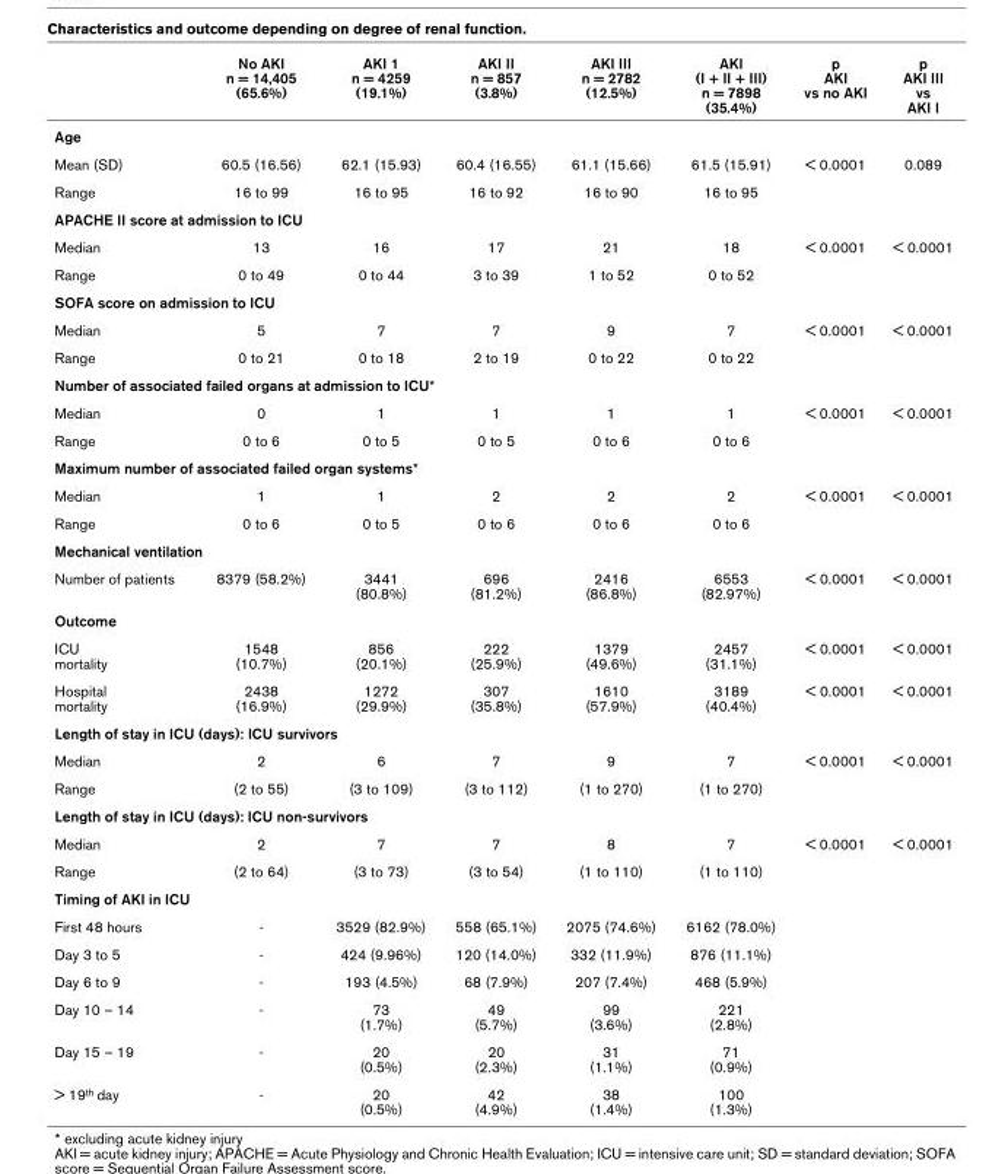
<table><thead><tr><td></td><td>No AKI n = 14,405 (65.6%)</td><td>AKI 1 n = 4259 (19.1%)</td><td>AKI II n = 857 (3.8%)</td><td>AKI III n = 2782 (12.5%)</td><td>AKI (I + II + III) n = 7898 (35.4%)</td><td>p AKI vs no AKI</td><td>p AKI III vs AKI I</td></tr></thead><tbody><tr><td colspan="8">Age</td></tr><tr><td>Mean (SD)</td><td>60.5 (16.56)</td><td>62.1 (15.93)</td><td>60.4 (16.55)</td><td>61.1 (15.66)</td><td>61.5 (15.91)</td><td>&lt; 0.0001</td><td>0.089</td></tr><tr><td>Range</td><td>16 to 99</td><td>16 to 95</td><td>16 to 92</td><td>16 to 90</td><td>16 to 95</td><td></td><td></td></tr><tr><td colspan="8">APACHE II score at admission to ICU</td></tr><tr><td>Median</td><td>13</td><td>16</td><td>17</td><td>21</td><td>18</td><td>&lt; 0.0001</td><td>&lt; 0.0001</td></tr><tr><td>Range</td><td>0 to 49</td><td>0 to 44</td><td>3 to 39</td><td>1 to 52</td><td>0 to 52</td><td></td><td></td></tr><tr><td colspan="8">SOFA score on admission to ICU</td></tr><tr><td>Median</td><td>5</td><td>7</td><td>7</td><td>9</td><td>7</td><td>&lt; 0.0001</td><td>&lt; 0.0001</td></tr><tr><td>Range</td><td>0 to 21</td><td>0 to 18</td><td>2 to 19</td><td>0 to 22</td><td>0 to 22</td><td></td><td></td></tr><tr><td colspan="8">Number of associated failed organs at admission to ICU*</td></tr><tr><td>Median</td><td>0</td><td>1</td><td>1</td><td>1</td><td>1</td><td>&lt; 0.0001</td><td>&lt; 0.0001</td></tr><tr><td>Range</td><td>0 to 6</td><td>0 to 5</td><td>0 to 5</td><td>0 to 6</td><td>0 to 6</td><td></td><td></td></tr><tr><td colspan="8">Maximum number of associated failed organ systems*</td></tr><tr><td>Median</td><td>1</td><td>1</td><td>2</td><td>2</td><td>2</td><td>&lt; 0.0001</td><td>&lt; 0.0001</td></tr><tr><td>Range</td><td>0 to 6</td><td>0 to 5</td><td>0 to 6</td><td>0 to 6</td><td>0 to 6</td><td></td><td></td></tr><tr><td colspan="8">Mechanical ventilation</td></tr><tr><td>Number of patients</td><td>8379 (58.2%)</td><td>3441 (80.8%)</td><td>696 (81.2%)</td><td>2416 (86.8%)</td><td>6553 (82.97%)</td><td>&lt; 0.0001</td><td>&lt; 0.0001</td></tr><tr><td colspan="8">Outcome</td></tr><tr><td>ICU mortality</td><td>1548 (10.7%)</td><td>856 (20.1%)</td><td>222 (25.9%)</td><td>1379 (49.6%)</td><td>2457 (31.1%)</td><td>&lt; 0.0001</td><td>&lt; 0.0001</td></tr><tr><td>Hospital mortality</td><td>2438 (16.9%)</td><td>1272 (29.9%)</td><td>307 (35.8%)</td><td>1610 (57.9%)</td><td>3189 (40.4%)</td><td>&lt; 0.0001</td><td>&lt; 0.0001</td></tr><tr><td colspan="8">Length of stay in ICU (days): ICU survivors</td></tr><tr><td>Median</td><td>2</td><td>6</td><td>7</td><td>9</td><td>7</td><td>&lt; 0.0001</td><td>&lt; 0.0001</td></tr><tr><td>Range</td><td>(2 to 55)</td><td>(3 to 109)</td><td>(3 to 112)</td><td>(1 to 270)</td><td>(1 to 270)</td><td></td><td></td></tr><tr><td colspan="8">Length of stay in ICU (days): ICU non-survivors</td></tr><tr><td>Median</td><td>2</td><td>7</td><td>7</td><td>8</td><td>7</td><td>&lt; 0.0001</td><td>&lt; 0.0001</td></tr><tr><td>Range</td><td>(2 to 64)</td><td>(3 to 73)</td><td>(3 to 54)</td><td>(1 to 110)</td><td>(1 to 110)</td><td></td><td></td></tr><tr><td colspan="8">Timing of AKI in ICU</td></tr><tr><td>First 48 hours</td><td>-</td><td>3529 (82.9%)</td><td>558 (65.1%)</td><td>2075 (74.6%)</td><td>6162 (78.0%)</td><td></td><td></td></tr><tr><td>Day 3 to 5</td><td>-</td><td>424 (9.96%)</td><td>120 (14.0%)</td><td>332 (11.9%)</td><td>876 (11.1%)</td><td></td><td></td></tr><tr><td>Day 6 to 9</td><td>-</td><td>193 (4.5%)</td><td>68 (7.9%)</td><td>207 (7.4%)</td><td>468 (5.9%)</td><td></td><td></td></tr><tr><td>Day 10 – 14</td><td>-</td><td>73 (1.7%)</td><td>49 (5.7%)</td><td>99 (3.6%)</td><td>221 (2.8%)</td><td></td><td></td></tr><tr><td>Day 15 – 19</td><td>-</td><td>20 (0.5%)</td><td>20 (2.3%)</td><td>31 (1.1%)</td><td>71 (0.9%)</td><td></td><td></td></tr><tr><td>&gt; 19<sup>th</sup> day</td><td>-</td><td>20 (0.5%)</td><td>42 (4.9%)</td><td>38 (1.4%)</td><td>100 (1.3%)</td><td></td><td></td></tr></tbody></table>